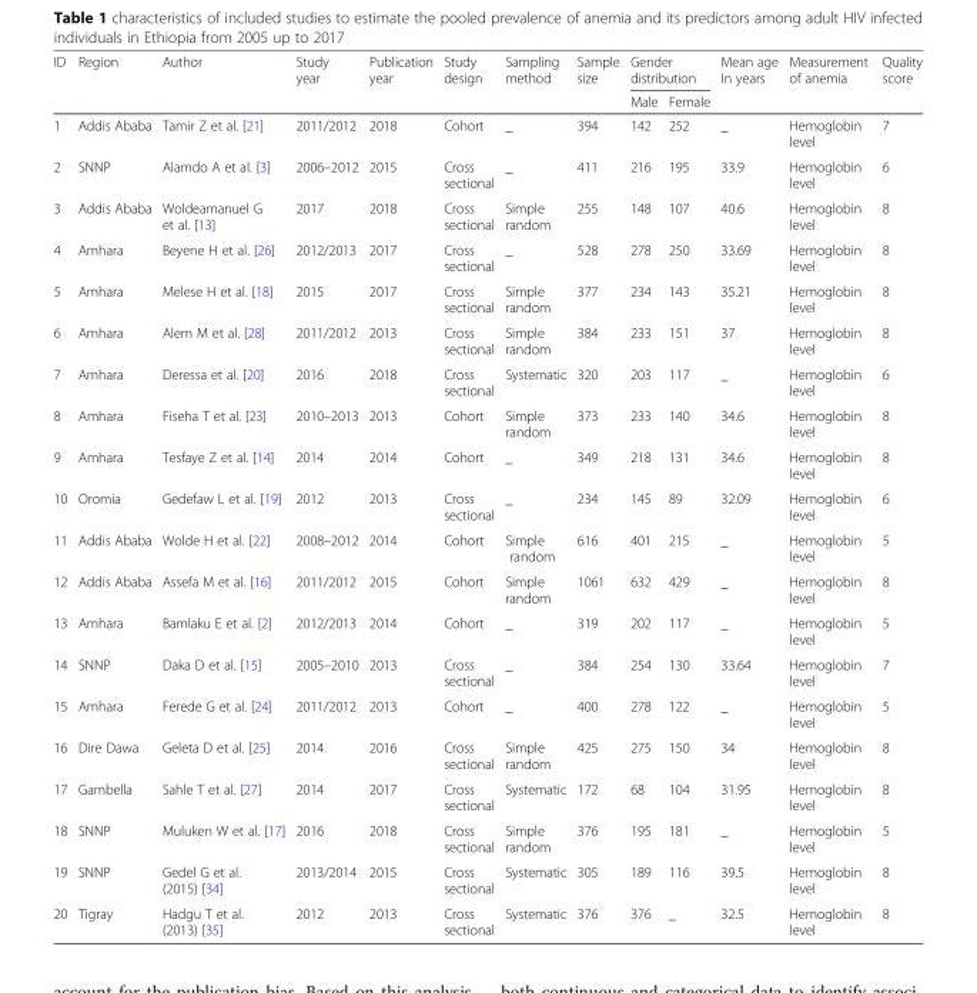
<table><thead><tr><td rowspan="2">ID</td><td rowspan="2">Region</td><td rowspan="2">Author</td><td rowspan="2">Study year</td><td rowspan="2">Publication year</td><td rowspan="2">Study design</td><td rowspan="2">Sampling method</td><td rowspan="2">Sample size</td><td colspan="2">Gender distribution</td><td rowspan="2">Mean age In years</td><td rowspan="2">Measurement of anemia</td><td rowspan="2">Quality score</td></tr><tr><td>Male</td><td>Female</td></tr></thead><tbody><tr><td>1</td><td>Addis Ababa</td><td>Tamir Z et al. [21]</td><td>2011/2012</td><td>2018</td><td>Cohort</td><td>_</td><td>394</td><td>142</td><td>252</td><td>_</td><td>Hemoglobin level</td><td>7</td></tr><tr><td>2</td><td>SNNP</td><td>Alamdo A et al. [3]</td><td>2006–2012</td><td>2015</td><td>Cross sectional</td><td>_</td><td>411</td><td>216</td><td>195</td><td>33.9</td><td>Hemoglobin level</td><td>6</td></tr><tr><td>3</td><td>Addis Ababa</td><td>Woldeamanuel G et al. [13]</td><td>2017</td><td>2018</td><td>Cross sectional</td><td>Simple random</td><td>255</td><td>148</td><td>107</td><td>40.6</td><td>Hemoglobin level</td><td>8</td></tr><tr><td>4</td><td>Amhara</td><td>Beyene H et al. [26]</td><td>2012/2013</td><td>2017</td><td>Cross sectional</td><td>_</td><td>528</td><td>278</td><td>250</td><td>33.69</td><td>Hemoglobin level</td><td>8</td></tr><tr><td>5</td><td>Amhara</td><td>Melese H et al. [18]</td><td>2015</td><td>2017</td><td>Cross sectional</td><td>Simple random</td><td>377</td><td>234</td><td>143</td><td>35.21</td><td>Hemoglobin level</td><td>8</td></tr><tr><td>6</td><td>Amhara</td><td>Alem M et al. [28]</td><td>2011/2012</td><td>2013</td><td>Cross sectional</td><td>Simple random</td><td>384</td><td>233</td><td>151</td><td>37</td><td>Hemoglobin level</td><td>8</td></tr><tr><td>7</td><td>Amhara</td><td>Deressa et al. [20]</td><td>2016</td><td>2018</td><td>Cross sectional</td><td>Systematic</td><td>320</td><td>203</td><td>117</td><td>_</td><td>Hemoglobin level</td><td>6</td></tr><tr><td>8</td><td>Amhara</td><td>Fiseha T et al. [23]</td><td>2010–2013</td><td>2013</td><td>Cohort</td><td>Simple random</td><td>373</td><td>233</td><td>140</td><td>34.6</td><td>Hemoglobin level</td><td>8</td></tr><tr><td>9</td><td>Amhara</td><td>Tesfaye Z et al. [14]</td><td>2014</td><td>2014</td><td>Cohort</td><td>_</td><td>349</td><td>218</td><td>131</td><td>34.6</td><td>Hemoglobin level</td><td>8</td></tr><tr><td>10</td><td>Oromia</td><td>Gedefaw L et al. [19]</td><td>2012</td><td>2013</td><td>Cross sectional</td><td>_</td><td>234</td><td>145</td><td>89</td><td>32.09</td><td>Hemoglobin level</td><td>6</td></tr><tr><td>11</td><td>Addis Ababa</td><td>Wolde H et al. [22]</td><td>2008–2012</td><td>2014</td><td>Cohort</td><td>Simple random</td><td>616</td><td>401</td><td>215</td><td>_</td><td>Hemoglobin level</td><td>5</td></tr><tr><td>12</td><td>Addis Ababa</td><td>Assefa M et al. [16]</td><td>2011/2012</td><td>2015</td><td>Cohort</td><td>Simple random</td><td>1061</td><td>632</td><td>429</td><td>_</td><td>Hemoglobin level</td><td>8</td></tr><tr><td>13</td><td>Amhara</td><td>Bamlaku E et al. [2]</td><td>2012/2013</td><td>2014</td><td>Cohort</td><td>_</td><td>319</td><td>202</td><td>117</td><td>_</td><td>Hemoglobin level</td><td>5</td></tr><tr><td>14</td><td>SNNP</td><td>Daka D et al. [15]</td><td>2005–2010</td><td>2013</td><td>Cross sectional</td><td>_</td><td>384</td><td>254</td><td>130</td><td>33.64</td><td>Hemoglobin level</td><td>7</td></tr><tr><td>15</td><td>Amhara</td><td>Ferede G et al. [24]</td><td>2011/2012</td><td>2013</td><td>Cohort</td><td>_</td><td>400</td><td>278</td><td>122</td><td>_</td><td>Hemoglobin level</td><td>5</td></tr><tr><td>16</td><td>Dire Dawa</td><td>Geleta D et al. [25]</td><td>2014</td><td>2016</td><td>Cross sectional</td><td>Simple random</td><td>425</td><td>275</td><td>150</td><td>34</td><td>Hemoglobin level</td><td>8</td></tr><tr><td>17</td><td>Gambella</td><td>Sahle T et al. [27]</td><td>2014</td><td>2017</td><td>Cross sectional</td><td>Systematic</td><td>172</td><td>68</td><td>104</td><td>31.95</td><td>Hemoglobin level</td><td>8</td></tr><tr><td>18</td><td>SNNP</td><td>Muluken W et al. [17]</td><td>2016</td><td>2018</td><td>Cross sectional</td><td>Simple random</td><td>376</td><td>195</td><td>181</td><td>_</td><td>Hemoglobin level</td><td>5</td></tr><tr><td>19</td><td>SNNP</td><td>Gedel G et al. (2015) [34]</td><td>2013/2014</td><td>2015</td><td>Cross sectional</td><td>Systematic</td><td>305</td><td>189</td><td>116</td><td>39.5</td><td>Hemoglobin level</td><td>8</td></tr><tr><td>20</td><td>Tigray</td><td>Hadgu T et al. (2013) [35]</td><td>2012</td><td>2013</td><td>Cross sectional</td><td>Systematic</td><td>376</td><td>376</td><td>_</td><td>32.5</td><td>Hemoglobin level</td><td>8</td></tr></tbody></table>